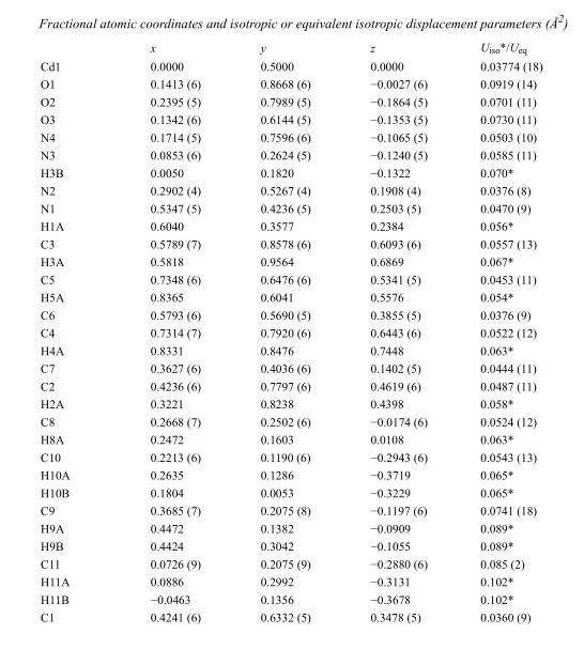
<table><thead><tr><td></td><td>x</td><td>y</td><td>z</td><td>U<sub>iso</sub>*/U<sub>eq</sub></td></tr></thead><tbody><tr><td>Cd1</td><td>0.0000</td><td>0.5000</td><td>0.0000</td><td>0.03774 (18)</td></tr><tr><td>O1</td><td>0.1413 (6)</td><td>0.8668 (6)</td><td>−0.0027 (6)</td><td>0.0919 (14)</td></tr><tr><td>O2</td><td>0.2395 (5)</td><td>0.7989 (5)</td><td>−0.1864 (5)</td><td>0.0701 (11)</td></tr><tr><td>O3</td><td>0.1342 (6)</td><td>0.6144 (5)</td><td>−0.1353 (5)</td><td>0.0730 (11)</td></tr><tr><td>N4</td><td>0.1714 (5)</td><td>0.7596 (6)</td><td>−0.1065 (5)</td><td>0.0503 (10)</td></tr><tr><td>N3</td><td>0.0853 (6)</td><td>0.2624 (5)</td><td>−0.1240 (5)</td><td>0.0585 (11)</td></tr><tr><td>H3B</td><td>0.0050</td><td>0.1820</td><td>−0.1322</td><td>0.070*</td></tr><tr><td>N2</td><td>0.2902 (4)</td><td>0.5267 (4)</td><td>0.1908 (4)</td><td>0.0376 (8)</td></tr><tr><td>N1</td><td>0.5347 (5)</td><td>0.4236 (5)</td><td>0.2503 (5)</td><td>0.0470 (9)</td></tr><tr><td>H1A</td><td>0.6040</td><td>0.3577</td><td>0.2384</td><td>0.056*</td></tr><tr><td>C3</td><td>0.5789 (7)</td><td>0.8578 (6)</td><td>0.6093 (6)</td><td>0.0557 (13)</td></tr><tr><td>H3A</td><td>0.5818</td><td>0.9564</td><td>0.6869</td><td>0.067*</td></tr><tr><td>C5</td><td>0.7348 (6)</td><td>0.6476 (6)</td><td>0.5341 (5)</td><td>0.0453 (11)</td></tr><tr><td>H5A</td><td>0.8365</td><td>0.6041</td><td>0.5576</td><td>0.054*</td></tr><tr><td>C6</td><td>0.5793 (6)</td><td>0.5690 (5)</td><td>0.3855 (5)</td><td>0.0376 (9)</td></tr><tr><td>C4</td><td>0.7314 (7)</td><td>0.7920 (6)</td><td>0.6443 (6)</td><td>0.0522 (12)</td></tr><tr><td>H4A</td><td>0.8331</td><td>0.8476</td><td>0.7448</td><td>0.063*</td></tr><tr><td>C7</td><td>0.3627 (6)</td><td>0.4036 (6)</td><td>0.1402 (5)</td><td>0.0444 (11)</td></tr><tr><td>C2</td><td>0.4236 (6)</td><td>0.7797 (6)</td><td>0.4619 (6)</td><td>0.0487 (11)</td></tr><tr><td>H2A</td><td>0.3221</td><td>0.8238</td><td>0.4398</td><td>0.058*</td></tr><tr><td>C8</td><td>0.2668 (7)</td><td>0.2502 (6)</td><td>−0.0174 (6)</td><td>0.0524 (12)</td></tr><tr><td>H8A</td><td>0.2472</td><td>0.1603</td><td>0.0108</td><td>0.063*</td></tr><tr><td>C10</td><td>0.2213 (6)</td><td>0.1190 (6)</td><td>−0.2943 (6)</td><td>0.0543 (13)</td></tr><tr><td>H10A</td><td>0.2635</td><td>0.1286</td><td>−0.3719</td><td>0.065*</td></tr><tr><td>H10B</td><td>0.1804</td><td>0.0053</td><td>−0.3229</td><td>0.065*</td></tr><tr><td>C9</td><td>0.3685 (7)</td><td>0.2075 (8)</td><td>−0.1197 (6)</td><td>0.0741 (18)</td></tr><tr><td>H9A</td><td>0.4472</td><td>0.1382</td><td>−0.0909</td><td>0.089*</td></tr><tr><td>H9B</td><td>0.4424</td><td>0.3042</td><td>−0.1055</td><td>0.089*</td></tr><tr><td>C11</td><td>0.0726 (9)</td><td>0.2075 (9)</td><td>−0.2880 (6)</td><td>0.085 (2)</td></tr><tr><td>H11A</td><td>0.0886</td><td>0.2992</td><td>−0.3131</td><td>0.102*</td></tr><tr><td>H11B</td><td>−0.0463</td><td>0.1356</td><td>−0.3678</td><td>0.102*</td></tr><tr><td>C1</td><td>0.4241 (6)</td><td>0.6332 (5)</td><td>0.3478 (5)</td><td>0.0360 (9)</td></tr></tbody></table>